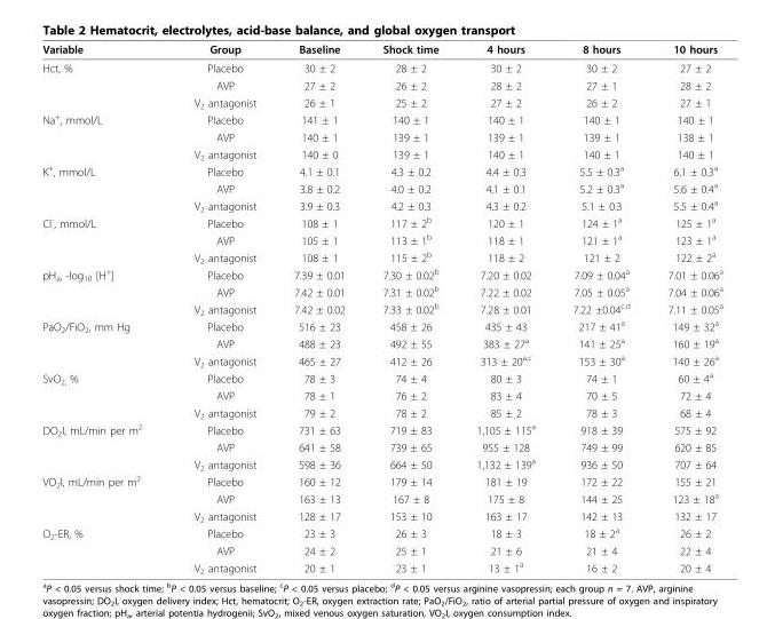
<table><thead><tr><td>Variable</td><td>Group</td><td>Baseline</td><td>Shock time</td><td>4 hours</td><td>8 hours</td><td>10 hours</td></tr></thead><tbody><tr><td rowspan="3">Hct, %</td><td>Placebo</td><td>30 ± 2</td><td>28 ± 2</td><td>30 ± 2</td><td>30 ± 2</td><td>27 ± 2</td></tr><tr><td>AVP</td><td>27 ± 2</td><td>26 ± 2</td><td>28 ± 2</td><td>27 ± 1</td><td>28 ± 2</td></tr><tr><td>V<sub>2</sub> antagonist</td><td>26 ± 1</td><td>25 ± 2</td><td>27 ± 2</td><td>26 ± 2</td><td>27 ± 1</td></tr><tr><td rowspan="3">Na<sup>+</sup>, mmol/L</td><td>Placebo</td><td>141 ± 1</td><td>140 ± 1</td><td>140 ± 1</td><td>140 ± 1</td><td>140 ± 1</td></tr><tr><td>AVP</td><td>140 ± 1</td><td>139 ± 1</td><td>139 ± 1</td><td>139 ± 1</td><td>138 ± 1</td></tr><tr><td>V<sub>2</sub> antagonist</td><td>140 ± 0</td><td>139 ± 1</td><td>140 ± 1</td><td>140 ± 1</td><td>140 ± 1</td></tr><tr><td rowspan="3">K<sup>+</sup>, mmol/L</td><td>Placebo</td><td>4.1 ± 0.1</td><td>4.3 ± 0.2</td><td>4.4 ± 0.3</td><td>5.5 ± 0.3<sup>a</sup></td><td>6.1 ± 0.3<sup>a</sup></td></tr><tr><td>AVP</td><td>3.8 ± 0.2</td><td>4.0 ± 0.2</td><td>4.1 ± 0.1</td><td>5.2 ± 0.3<sup>a</sup></td><td>5.6 ± 0.4<sup>a</sup></td></tr><tr><td>V<sub>2</sub> antagonist</td><td>3.9 ± 0.3</td><td>4.2 ± 0.3</td><td>4.3 ± 0.2</td><td>5.1 ± 0.3</td><td>5.5 ± 0.4<sup>a</sup></td></tr><tr><td rowspan="3">Cl<sup>-</sup>, mmol/L</td><td>Placebo</td><td>108 ± 1</td><td>117 ± 2<sup>b</sup></td><td>120 ± 1</td><td>124 ± 1<sup>a</sup></td><td>125 ± 1<sup>a</sup></td></tr><tr><td>AVP</td><td>105 ± 1</td><td>113 ± 1<sup>b</sup></td><td>118 ± 1</td><td>121 ± 1<sup>a</sup></td><td>123 ± 1<sup>a</sup></td></tr><tr><td>V<sub>2</sub> antagonist</td><td>108 ± 1</td><td>115 ± 2<sup>b</sup></td><td>118 ± 2</td><td>121 ± 2</td><td>122 ± 2<sup>a</sup></td></tr><tr><td rowspan="3">pH<sub>a</sub>, -log<sub>10</sub> [H<sup>+</sup>]</td><td>Placebo</td><td>7.39 ± 0.01</td><td>7.30 ± 0.02<sup>b</sup></td><td>7.20 ± 0.02</td><td>7.09 ± 0.04<sup>a</sup></td><td>7.01 ± 0.06<sup>a</sup></td></tr><tr><td>AVP</td><td>7.42 ± 0.01</td><td>7.31 ± 0.02<sup>b</sup></td><td>7.22 ± 0.02</td><td>7.05 ± 0.05<sup>a</sup></td><td>7.04 ± 0.06<sup>a</sup></td></tr><tr><td>V<sub>2</sub> antagonist</td><td>7.42 ± 0.02</td><td>7.33 ± 0.02<sup>b</sup></td><td>7.28 ± 0.01</td><td>7.22 ±0.04<sup>c,d</sup></td><td>7.11 ± 0.05<sup>a</sup></td></tr><tr><td rowspan="3">PaO<sub>2</sub>/FiO<sub>2</sub>, mm Hg</td><td>Placebo</td><td>516 ± 23</td><td>458 ± 26</td><td>435 ± 43</td><td>217 ± 41<sup>a</sup></td><td>149 ± 32<sup>a</sup></td></tr><tr><td>AVP</td><td>488 ± 23</td><td>492 ± 55</td><td>383 ± 27<sup>a</sup></td><td>141 ± 25<sup>a</sup></td><td>160 ± 19<sup>a</sup></td></tr><tr><td>V<sub>2</sub> antagonist</td><td>465 ± 27</td><td>412 ± 26</td><td>313 ± 20<sup>a,c</sup></td><td>153 ± 30<sup>a</sup></td><td>140 ± 26<sup>a</sup></td></tr><tr><td rowspan="3">SvO<sub>2,</sub> %</td><td>Placebo</td><td>78 ± 3</td><td>74 ± 4</td><td>80 ± 3</td><td>74 ± 1</td><td>60 ± 4<sup>a</sup></td></tr><tr><td>AVP</td><td>78 ± 1</td><td>76 ± 2</td><td>83 ± 4</td><td>70 ± 5</td><td>72 ± 4</td></tr><tr><td>V<sub>2</sub> antagonist</td><td>79 ± 2</td><td>78 ± 2</td><td>85 ± 2</td><td>78 ± 3</td><td>68 ± 4</td></tr><tr><td rowspan="3">DO<sub>2</sub>I, mL/min per m<sup>2</sup></td><td>Placebo</td><td>731 ± 63</td><td>719 ± 83</td><td>1,105 ± 115<sup>a</sup></td><td>918 ± 39</td><td>575 ± 92</td></tr><tr><td>AVP</td><td>641 ± 58</td><td>739 ± 65</td><td>955 ± 128</td><td>749 ± 99</td><td>620 ± 85</td></tr><tr><td>V<sub>2</sub> antagonist</td><td>598 ± 36</td><td>664 ± 50</td><td>1,132 ± 139<sup>a</sup></td><td>936 ± 50</td><td>707 ± 64</td></tr><tr><td rowspan="3">VO<sub>2</sub>I, mL/min per m<sup>2</sup></td><td>Placebo</td><td>160 ± 12</td><td>179 ± 14</td><td>181 ± 19</td><td>172 ± 22</td><td>155 ± 21</td></tr><tr><td>AVP</td><td>163 ± 13</td><td>167 ± 8</td><td>175 ± 8</td><td>144 ± 25</td><td>123 ± 18<sup>a</sup></td></tr><tr><td>V<sub>2</sub> antagonist</td><td>128 ± 17</td><td>153 ± 10</td><td>163 ± 17</td><td>142 ± 13</td><td>132 ± 17</td></tr><tr><td rowspan="3">O<sub>2</sub>-ER, %</td><td>Placebo</td><td>23 ± 3</td><td>26 ± 3</td><td>18 ± 3</td><td>18 ± 2<sup>a</sup></td><td>26 ± 2</td></tr><tr><td>AVP</td><td>24 ± 2</td><td>25 ± 1</td><td>21 ± 6</td><td>21 ± 4</td><td>22 ± 4</td></tr><tr><td>V<sub>2</sub> antagonist</td><td>20 ± 1</td><td>23 ± 1</td><td>13 ± 1<sup>a</sup></td><td>16 ± 2</td><td>20 ± 4</td></tr></tbody></table>